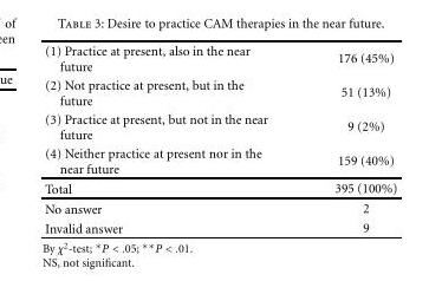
<table><tbody><tr><td>(1) Practice at present, also in the near future</td><td>176 (45%)</td></tr><tr><td>(2) Not practice at present, but in the future</td><td>51 (13%)</td></tr><tr><td>(3) Practice at present, but not in the near future</td><td>9 (2%)</td></tr><tr><td>(4) Neither practice at present nor in the near future</td><td>159 (40%)</td></tr><tr><td>Total</td><td>395 (100%)</td></tr><tr><td>No answer</td><td>2</td></tr><tr><td>Invalid answer</td><td>9</td></tr></tbody></table>